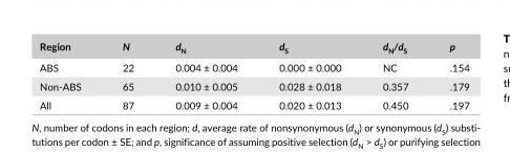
<table><thead><tr><td>Region</td><td>N</td><td>d<sub>N</sub></td><td>d<sub>S</sub></td><td>d<sub>N</sub>/d<sub>S</sub></td><td>p</td></tr></thead><tbody><tr><td>ABS</td><td>22</td><td>0.004 ± 0.004</td><td>0.000 ± 0.000</td><td>NC</td><td>.154</td></tr><tr><td>Non- ABS</td><td>65</td><td>0.010 ± 0.005</td><td>0.028 ± 0.018</td><td>0.357</td><td>.179</td></tr><tr><td>All</td><td>87</td><td>0.009 ± 0.004</td><td>0.020 ± 0.013</td><td>0.450</td><td>.197</td></tr></tbody></table>